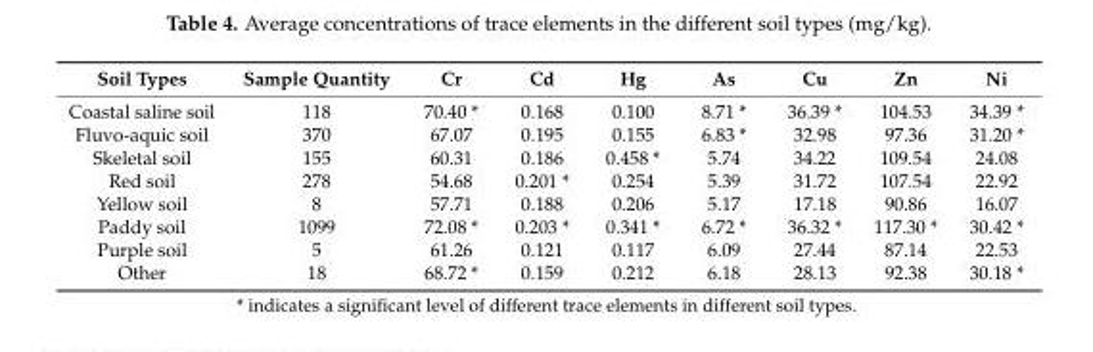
<table><thead><tr><td>Soil Types</td><td>Sample Quantity</td><td>Cr</td><td>Cd</td><td>Hg</td><td>As</td><td>Cu</td><td>Zn</td><td>Ni</td></tr></thead><tbody><tr><td>Coastal saline soil</td><td>118</td><td>70.40 *</td><td>0.168</td><td>0.100</td><td>8.71 *</td><td>36.39 *</td><td>104.53</td><td>34.39 *</td></tr><tr><td>Fluvo-aquic soil</td><td>370</td><td>67.07</td><td>0.195</td><td>0.155</td><td>6.83 *</td><td>32.98</td><td>97.36</td><td>31.20 *</td></tr><tr><td>Skeletal soil</td><td>155</td><td>60.31</td><td>0.186</td><td>0.458 *</td><td>5.74</td><td>34.22</td><td>109.54</td><td>24.08</td></tr><tr><td>Red soil</td><td>278</td><td>54.68</td><td>0.201 *</td><td>0.254</td><td>5.39</td><td>31.72</td><td>107.54</td><td>22.92</td></tr><tr><td>Yellow soil</td><td>8</td><td>57.71</td><td>0.188</td><td>0.206</td><td>5.17</td><td>17.18</td><td>90.86</td><td>16.07</td></tr><tr><td>Paddy soil</td><td>1099</td><td>72.08 *</td><td>0.203 *</td><td>0.341 *</td><td>6.72 *</td><td>36.32 *</td><td>117.30 *</td><td>30.42 *</td></tr><tr><td>Purple soil</td><td>5</td><td>61.26</td><td>0.121</td><td>0.117</td><td>6.09</td><td>27.44</td><td>87.14</td><td>22.53</td></tr><tr><td>Other</td><td>18</td><td>68.72 *</td><td>0.159</td><td>0.212</td><td>6.18</td><td>28.13</td><td>92.38</td><td>30.18 *</td></tr></tbody></table>